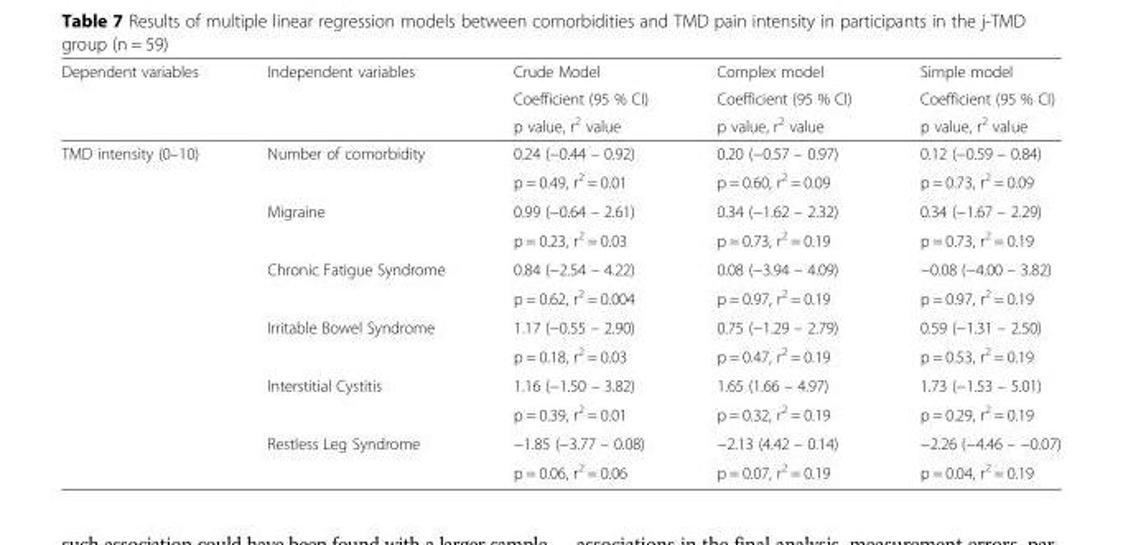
<table><thead><tr><td rowspan="3">Dependent variables</td><td rowspan="3">Independent variables</td><td rowspan="3">Crude Model Coefficient (95 % CI) p value, r<sup>2</sup> value</td><td rowspan="3">Complex model Coefficient (95 % CI) p value, r<sup>2</sup> value</td><td rowspan="3">Simple model Coefficient (95 % CI) p value, r<sup>2</sup> value</td></tr><tr></tr><tr></tr></thead><tbody><tr><td rowspan="12">TMD intensity (0–10)</td><td rowspan="2">Number of comorbidity</td><td>0.24 (−0.44 – 0.92)</td><td>0.20 (−0.57 – 0.97)</td><td>0.12 (−0.59 – 0.84)</td></tr><tr><td>p = 0.49, r<sup>2</sup> = 0.01</td><td>p = 0.60, r<sup>2</sup> = 0.09</td><td>p = 0.73, r<sup>2</sup> = 0.09</td></tr><tr><td rowspan="2">Migraine</td><td>0.99 (−0.64 – 2.61)</td><td>0.34 (−1.62 – 2.32)</td><td>0.34 (−1.67 – 2.29)</td></tr><tr><td>p = 0.23, r<sup>2</sup> = 0.03</td><td>p = 0.73, r<sup>2</sup> = 0.19</td><td>p = 0.73, r<sup>2</sup> = 0.19</td></tr><tr><td rowspan="2">Chronic Fatigue Syndrome</td><td>0.84 (−2.54 – 4.22)</td><td>0.08 (−3.94 – 4.09)</td><td>−0.08 (−4.00 – 3.82)</td></tr><tr><td>p = 0.62, r<sup>2</sup> = 0.004</td><td>p = 0.97, r<sup>2</sup> = 0.19</td><td>p = 0.97, r<sup>2</sup> = 0.19</td></tr><tr><td rowspan="2">Irritable Bowel Syndrome</td><td>1.17 (−0.55 – 2.90)</td><td>0.75 (−1.29 – 2.79)</td><td>0.59 (−1.31 – 2.50)</td></tr><tr><td>p = 0.18, r<sup>2</sup> = 0.03</td><td>p = 0.47, r<sup>2</sup> = 0.19</td><td>p = 0.53, r<sup>2</sup> = 0.19</td></tr><tr><td rowspan="2">Interstitial Cystitis</td><td>1.16 (−1.50 – 3.82)</td><td>1.65 (1.66 – 4.97)</td><td>1.73 (−1.53 – 5.01)</td></tr><tr><td>p = 0.39, r<sup>2</sup> = 0.01</td><td>p = 0.32, r<sup>2</sup> = 0.19</td><td>p = 0.29, r<sup>2</sup> = 0.19</td></tr><tr><td rowspan="2">Restless Leg Syndrome</td><td>−1.85 (−3.77 – 0.08)</td><td>−2.13 (4.42 – 0.14)</td><td>−2.26 (−4.46 – −0.07)</td></tr><tr><td>p = 0.06, r<sup>2</sup> = 0.06</td><td>p = 0.07, r<sup>2</sup> = 0.19</td><td>p = 0.04, r<sup>2</sup> = 0.19</td></tr></tbody></table>